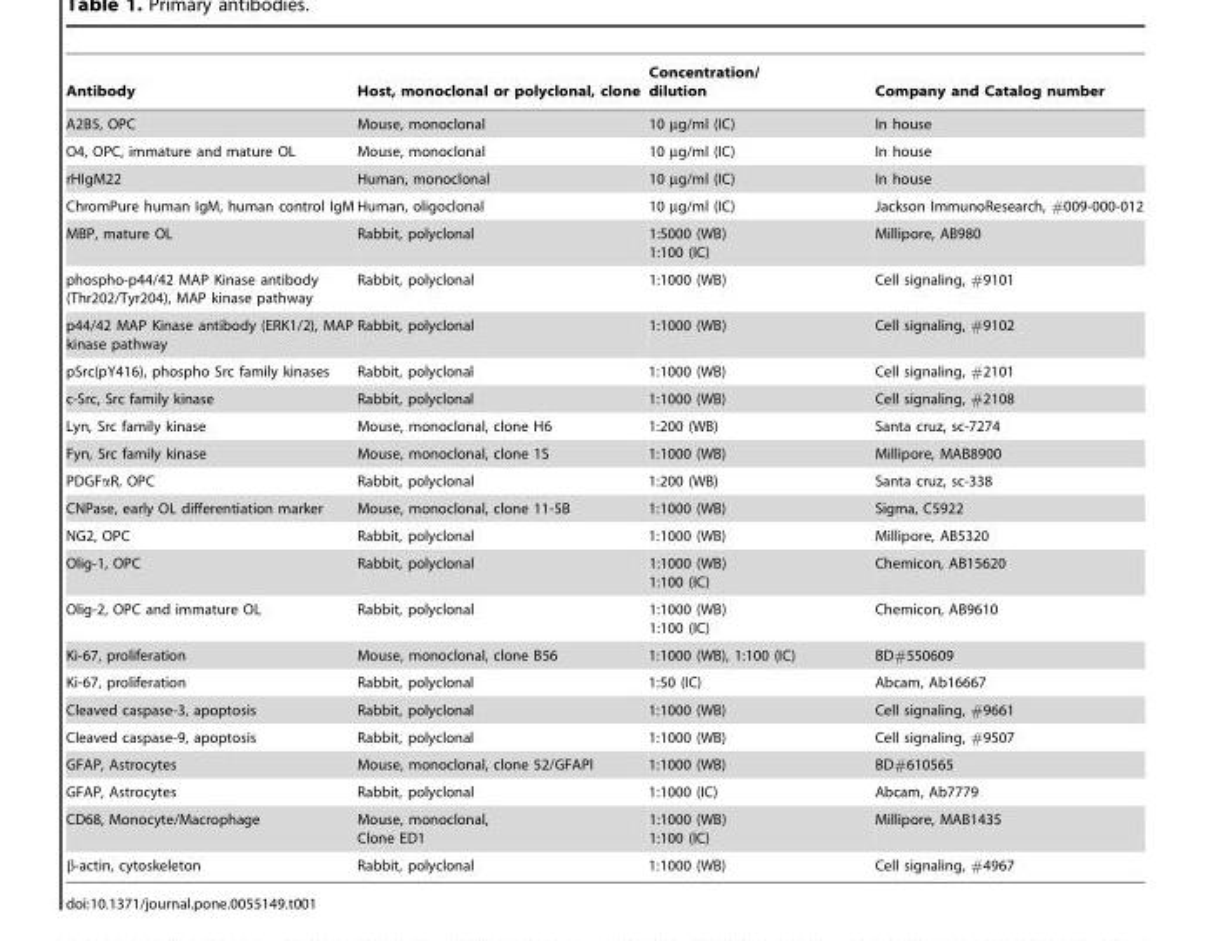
<table><thead><tr><td>Antibody</td><td>Host, monoclonal or polyclonal, clone</td><td>Concentration/ dilution</td><td>Company and Catalog number</td></tr></thead><tbody><tr><td>A2B5, OPC</td><td>Mouse, monoclonal</td><td>10 µg/ml (IC)</td><td>In house</td></tr><tr><td>O4, OPC, immature and mature OL</td><td>Mouse, monoclonal</td><td>10 µg/ml (IC)</td><td>In house</td></tr><tr><td>rHIgM22</td><td>Human, monoclonal</td><td>10 µg/ml (IC)</td><td>In house</td></tr><tr><td>ChromPure human IgM, human control IgM</td><td>Human, oligoclonal</td><td>10 µg/ml (IC)</td><td>Jackson ImmunoResearch, #009-000-012</td></tr><tr><td>MBP, mature OL</td><td>Rabbit, polyclonal</td><td>1:5000 (WB) 1:100 (IC)</td><td>Millipore, AB980</td></tr><tr><td>phospho-p44/42 MAP Kinase antibody (Thr202/Tyr204), MAP kinase pathway</td><td>Rabbit, polyclonal</td><td>1:1000 (WB)</td><td>Cell signaling, #9101</td></tr><tr><td>p44/42 MAP Kinase antibody (ERK1/2), MAP kinase pathway</td><td>Rabbit, polyclonal</td><td>1:1000 (WB)</td><td>Cell signaling, #9102</td></tr><tr><td>pSrc(pY416), phospho Src family kinases</td><td>Rabbit, polyclonal</td><td>1:1000 (WB)</td><td>Cell signaling, #2101</td></tr><tr><td>c-Src, Src family kinase</td><td>Rabbit, polyclonal</td><td>1:1000 (WB)</td><td>Cell signaling, #2108</td></tr><tr><td>Lyn, Src family kinase</td><td>Mouse, monoclonal, clone H6</td><td>1:200 (WB)</td><td>Santa cruz, sc-7274</td></tr><tr><td>Fyn, Src family kinase</td><td>Mouse, monoclonal, clone 1S</td><td>1:1000 (WB)</td><td>Millipore, MAB8900</td></tr><tr><td>PDGFαR, OPC</td><td>Rabbit, polyclonal</td><td>1:200 (WB)</td><td>Santa cruz, sc-338</td></tr><tr><td>CNPase, early OL differentiation marker</td><td>Mouse, monoclonal, clone 11-5B</td><td>1:1000 (WB)</td><td>Sigma, C5922</td></tr><tr><td>NG2, OPC</td><td>Rabbit, polyclonal</td><td>1:1000 (WB)</td><td>Millipore, AB5320</td></tr><tr><td>Olig-1, OPC</td><td>Rabbit, polyclonal</td><td>1:1000 (WB) 1:100 (IC)</td><td>Chemicon, AB15620</td></tr><tr><td>Olig-2, OPC and immature OL</td><td>Rabbit, polyclonal</td><td>1:1000 (WB) 1:100 (IC)</td><td>Chemicon, AB9610</td></tr><tr><td>Ki-67, proliferation</td><td>Mouse, monoclonal, clone B56</td><td>1:1000 (WB), 1:100 (IC)</td><td>BD#550609</td></tr><tr><td>Ki-67, proliferation</td><td>Rabbit, polyclonal</td><td>1:50 (IC)</td><td>Abcam, Ab16667</td></tr><tr><td>Cleaved caspase-3, apoptosis</td><td>Rabbit, polyclonal</td><td>1:1000 (WB)</td><td>Cell signaling, #9661</td></tr><tr><td>Cleaved caspase-9, apoptosis</td><td>Rabbit, polyclonal</td><td>1:1000 (WB)</td><td>Cell signaling, #9507</td></tr><tr><td>GFAP, Astrocytes</td><td>Mouse, monoclonal, clone 52/GFAPl</td><td>1:1000 (WB)</td><td>BD#610565</td></tr><tr><td>GFAP, Astrocytes</td><td>Rabbit, polyclonal</td><td>1:1000 (IC)</td><td>Abcam, Ab7779</td></tr><tr><td>CD68, Monocyte/Macrophage</td><td>Mouse, monoclonal, Clone ED1</td><td>1:1000 (WB) 1:100 (IC)</td><td>Millipore, MAB1435</td></tr><tr><td>β-actin, cytoskeleton</td><td>Rabbit, polyclonal</td><td>1:1000 (WB)</td><td>Cell signaling, #4967</td></tr></tbody></table>